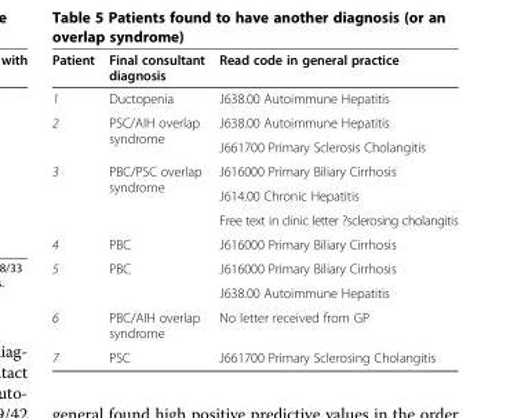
<table><thead><tr><td>Patient</td><td>Final consultant diagnosis</td><td>Read code in general practice</td></tr></thead><tbody><tr><td>1</td><td>Ductopenia</td><td>J638.00 Autoimmune Hepatitis</td></tr><tr><td rowspan="2">2</td><td rowspan="2">PSC/AIH overlap syndrome</td><td>J638.00 Autoimmune Hepatitis</td></tr><tr><td>J661700 Primary Sclerosis Cholangitis</td></tr><tr><td rowspan="3">3</td><td rowspan="3">PBC/PSC overlap syndrome</td><td>J616000 Primary Biliary Cirrhosis</td></tr><tr><td>J614.00 Chronic Hepatitis</td></tr><tr><td>Free text in clinic letter ?sclerosing cholangitis</td></tr><tr><td>4</td><td>PBC</td><td>J616000 Primary Biliary Cirrhosis</td></tr><tr><td rowspan="2">5</td><td rowspan="2">PBC</td><td>J616000 Primary Biliary Cirrhosis</td></tr><tr><td>J638.00 Autoimmune Hepatitis</td></tr><tr><td>6</td><td>PBC/AIH overlap syndrome</td><td>No letter received from GP</td></tr><tr><td>7</td><td>PSC</td><td>J661700 Primary Sclerosing Cholangitis</td></tr></tbody></table>